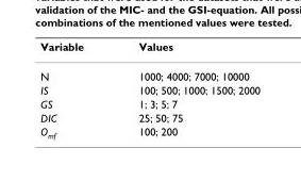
<table><thead><tr><td>Variable</td><td>Values</td></tr></thead><tbody><tr><td>N</td><td>1000; 4000; 7000; 10000</td></tr><tr><td>IS</td><td>100; 500; 1000; 1500; 2000</td></tr><tr><td>GS</td><td>1; 3; 5; 7</td></tr><tr><td>DIC</td><td>25; 50; 75</td></tr><tr><td>O<sub>mf</sub></td><td>100; 200</td></tr></tbody></table>